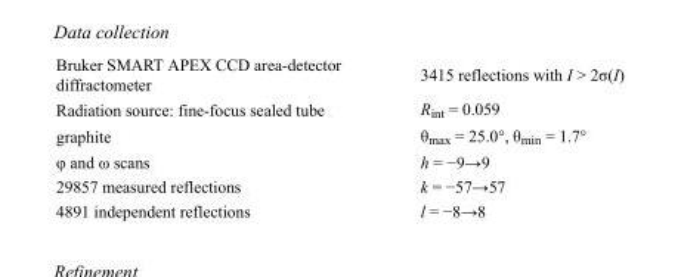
<table><tbody><tr><td>Bruker SMART APEX CCD area-detector diffractometer</td><td>3415 reflections with I &gt; 2σ(I)</td></tr><tr><td>Radiation source: fine-focus sealed tube</td><td>R<sub>int</sub> = 0.059</td></tr><tr><td>graphite</td><td>θ<sub>max</sub> = 25.0°, θ<sub>min</sub> = 1.7°</td></tr><tr><td>φ and ω scans</td><td>h = −9→9</td></tr><tr><td>29857 measured reflections</td><td>k = −57→57</td></tr><tr><td>4891 independent reflections</td><td>l = −8→8</td></tr></tbody></table>